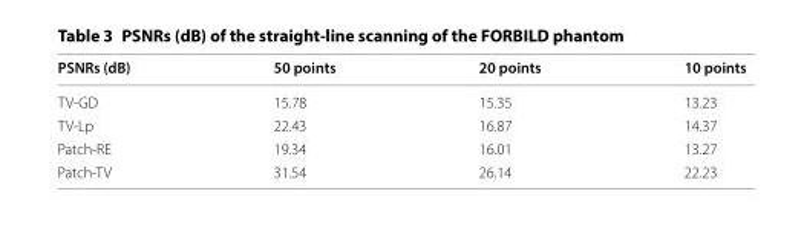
<table><thead><tr><td>PSNRs (dB)</td><td>50 points</td><td>20 points</td><td>10 points</td></tr></thead><tbody><tr><td>TV-GD</td><td>15.78</td><td>15.35</td><td>13.23</td></tr><tr><td>TV-Lp</td><td>22.43</td><td>16.87</td><td>14.37</td></tr><tr><td>Patch-RE</td><td>19.34</td><td>16.01</td><td>13.27</td></tr><tr><td>Patch-TV</td><td>31.54</td><td>26.14</td><td>22.23</td></tr></tbody></table>